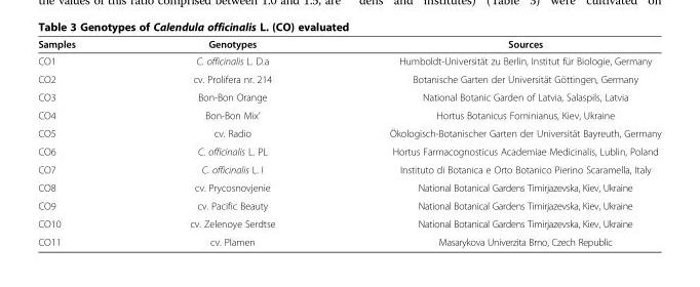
<table><thead><tr><td>Samples</td><td>Genotypes</td><td>Sources</td></tr></thead><tbody><tr><td>CO1</td><td>C. officinalis L. D.a</td><td>Humboldt-Universität zu Berlin, Institut für Biologie, Germany</td></tr><tr><td>CO2</td><td>cv. Prolifera nr. 214</td><td>Botanische Garten der Universität Göttingen, Germany</td></tr><tr><td>CO3</td><td>Bon-Bon Orange</td><td>National Botanic Garden of Latvia, Salaspils, Latvia</td></tr><tr><td>CO4</td><td>Bon-Bon Mix’</td><td>Hortus Botanicus Fominianus, Kiev, Ukraine</td></tr><tr><td>CO5</td><td>cv. Radio</td><td>Ökologisch-Botanischer Garten der Universität Bayreuth, Germany</td></tr><tr><td>CO6</td><td>C. officinalis L. PL</td><td>Hortus Farmacognosticus Academiae Medicinalis, Lublin, Poland</td></tr><tr><td>CO7</td><td>C. officinalis L. I</td><td>Instituto di Botanica e Orto Botanico Pierino Scaramella, Italy</td></tr><tr><td>CO8</td><td>cv. Prycosnovjenie</td><td>National Botanical Gardens Timirjazevska, Kiev, Ukraine</td></tr><tr><td>CO9</td><td>cv. Pacific Beauty</td><td>National Botanical Gardens Timirjazevska, Kiev, Ukraine</td></tr><tr><td>CO10</td><td>cv. Zelenoye Serdtse</td><td>National Botanical Gardens Timirjazevska, Kiev, Ukraine</td></tr><tr><td>CO11</td><td>cv. Plamen</td><td>Masarykova Univerzita Brno, Czech Republic</td></tr></tbody></table>